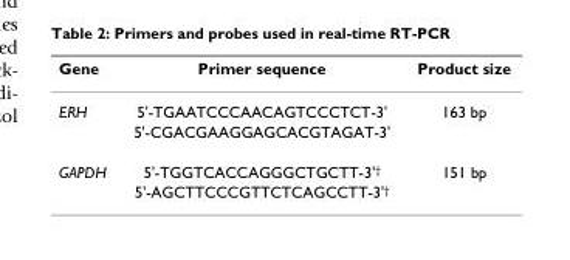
<table><thead><tr><td>Gene</td><td>Primer sequence</td><td>Product size</td></tr></thead><tbody><tr><td rowspan="2">ERH</td><td>5&#x27;-TGAATCCCAACAGTCCCTCT-3&#x27;</td><td>163 bp</td></tr><tr><td>5&#x27;-CGACGAAGGAGCACGTAGAT-3&#x27;</td><td></td></tr><tr><td rowspan="2">GAPDH</td><td>5&#x27;-TGGTCACCAGGGCTGCTT-3&#x27;<sup>†</sup></td><td>151 bp</td></tr><tr><td>5&#x27;-AGCTTCCCGTTCTCAGCCTT-3&#x27;<sup>†</sup></td><td></td></tr></tbody></table>